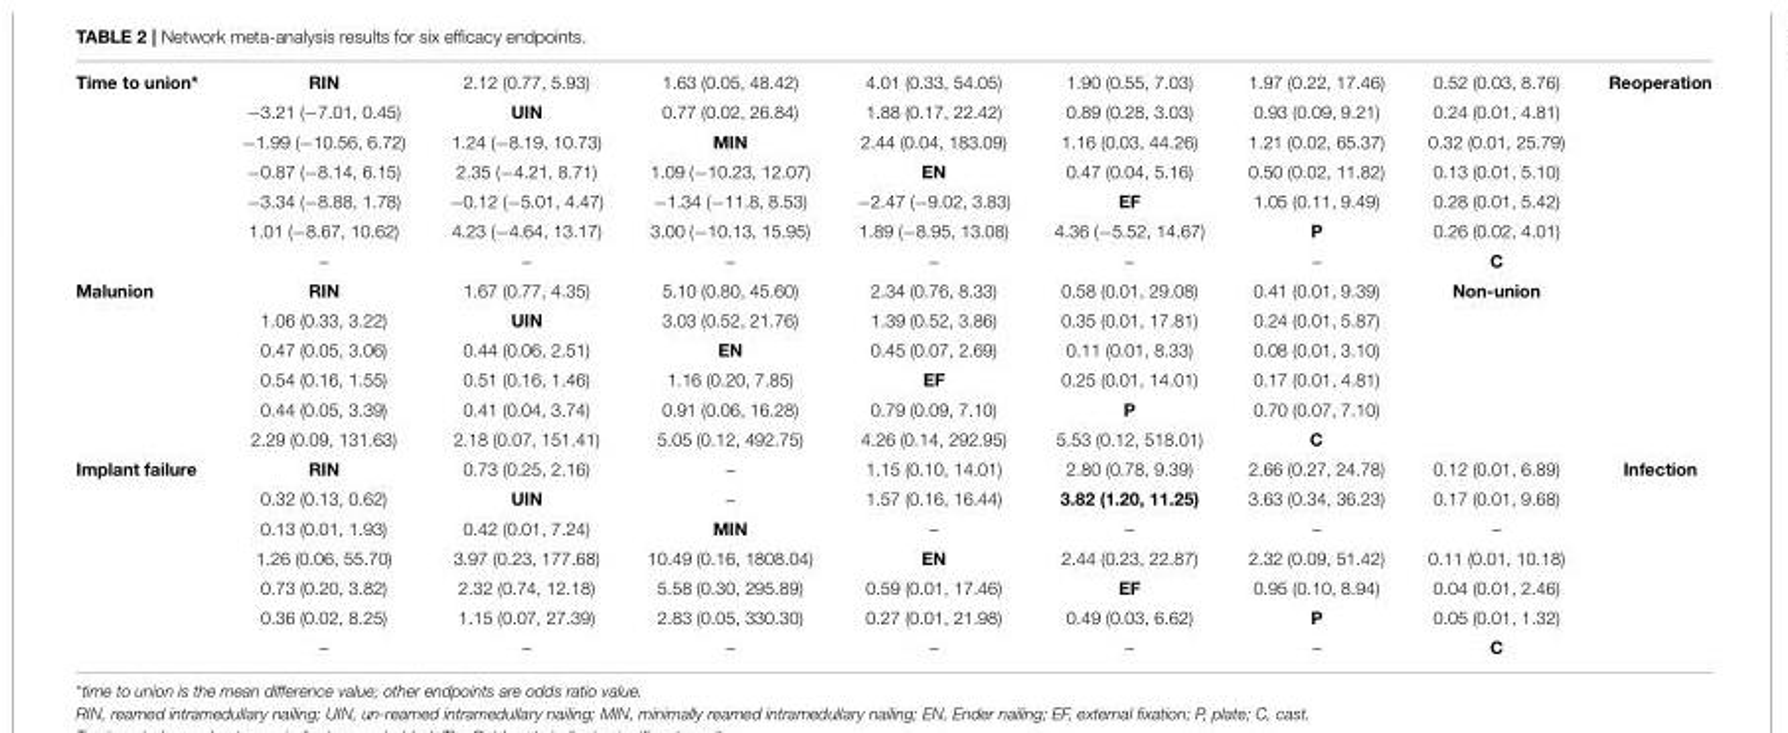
<table><tbody><tr><td rowspan="7">Time to union*</td><td>RIN</td><td>2.12 (0.77, 5.93)</td><td>1.63 (0.05, 48.42)</td><td>4.01 (0.33, 54.05)</td><td>1.90 (0.55, 7.03)</td><td>1.97 (0.22, 17.46)</td><td>0.52 (0.03, 8.76)</td><td>Reoperation</td></tr><tr><td>−3.21 (−7.01, 0.45)</td><td>UIN</td><td>0.77 (0.02, 26.84)</td><td>1.88 (0.17, 22.42)</td><td>0.89 (0.28, 3.03)</td><td>0.93 (0.09, 9.21)</td><td>0.24 (0.01, 4.81)</td><td></td></tr><tr><td>−1.99 (−10.56, 6.72)</td><td>1.24 (−8.19, 10.73)</td><td>MIN</td><td>2.44 (0.04, 183.09)</td><td>1.16 (0.03, 44.26)</td><td>1.21 (0.02, 65.37)</td><td>0.32 (0.01, 25.79)</td><td></td></tr><tr><td>−0.87 (−8.14, 6.15)</td><td>2.35 (−4.21, 8.71)</td><td>1.09 (−10.23, 12.07)</td><td>EN</td><td>0.47 (0.04, 5.16)</td><td>0.50 (0.02, 11.82)</td><td>0.13 (0.01, 5.10)</td><td></td></tr><tr><td>−3.34 (−8.88, 1.78)</td><td>−0.12 (−5.01, 4.47)</td><td>−1.34 (−11.8, 8.53)</td><td>−2.47 (−9.02, 3.83)</td><td>EF</td><td>1.05 (0.11, 9.49)</td><td>0.28 (0.01, 5.42)</td><td></td></tr><tr><td>1.01 (−8.67, 10.62)</td><td>4.23 (−4.64, 13.17)</td><td>3.00 (−10.13, 15.95)</td><td>1.89 (−8.95, 13.08)</td><td>4.36 (−5.52, 14.67)</td><td>P</td><td>0.26 (0.02, 4.01)</td><td></td></tr><tr><td>–</td><td>–</td><td>–</td><td>–</td><td>–</td><td>–</td><td>C</td><td></td></tr><tr><td rowspan="6">Malunion</td><td>RIN</td><td>1.67 (0.77, 4.35)</td><td>5.10 (0.80, 45.60)</td><td>2.34 (0.76, 8.33)</td><td>0.58 (0.01, 29.08)</td><td>0.41 (0.01, 9.39)</td><td>Non-union</td><td></td></tr><tr><td>1.06 (0.33, 3.22)</td><td>UIN</td><td>3.03 (0.52, 21.76)</td><td>1.39 (0.52, 3.86)</td><td>0.35 (0.01, 17.81)</td><td>0.24 (0.01, 5.87)</td><td></td><td></td></tr><tr><td>0.47 (0.05, 3.06)</td><td>0.44 (0.06, 2.51)</td><td>EN</td><td>0.45 (0.07, 2.69)</td><td>0.11 (0.01, 8.33)</td><td>0.08 (0.01, 3.10)</td><td></td><td></td></tr><tr><td>0.54 (0.16, 1.55)</td><td>0.51 (0.16, 1.46)</td><td>1.16 (0.20, 7.85)</td><td>EF</td><td>0.25 (0.01, 14.01)</td><td>0.17 (0.01, 4.81)</td><td></td><td></td></tr><tr><td>0.44 (0.05, 3.39)</td><td>0.41 (0.04, 3.74)</td><td>0.91 (0.06, 16.28)</td><td>0.79 (0.09, 7.10)</td><td>P</td><td>0.70 (0.07, 7.10)</td><td></td><td></td></tr><tr><td>2.29 (0.09, 131.63)</td><td>2.18 (0.07, 151.41)</td><td>5.05 (0.12, 492.75)</td><td>4.26 (0.14, 292.95)</td><td>5.53 (0.12, 518.01)</td><td>C</td><td></td><td></td></tr><tr><td rowspan="7">Implant failure</td><td>RIN</td><td>0.73 (0.25, 2.16)</td><td>–</td><td>1.15 (0.10, 14.01)</td><td>2.80 (0.78, 9.39)</td><td>2.66 (0.27, 24.78)</td><td>0.12 (0.01, 6.89)</td><td>Infection</td></tr><tr><td>0.32 (0.13, 0.62)</td><td>UIN</td><td>–</td><td>1.57 (0.16, 16.44)</td><td>3.82 (1.20, 11.25)</td><td>3.63 (0.34, 36.23)</td><td>0.17 (0.01, 9.68)</td><td></td></tr><tr><td>0.13 (0.01, 1.93)</td><td>0.42 (0.01, 7.24)</td><td>MIN</td><td>–</td><td>–</td><td>–</td><td>–</td><td></td></tr><tr><td>1.26 (0.06, 55.70)</td><td>3.97 (0.23, 177.68)</td><td>10.49 (0.16, 1808.04)</td><td>EN</td><td>2.44 (0.23, 22.87)</td><td>2.32 (0.09, 51.42)</td><td>0.11 (0.01, 10.18)</td><td></td></tr><tr><td>0.73 (0.20, 3.82)</td><td>2.32 (0.74, 12.18)</td><td>5.58 (0.30, 295.89)</td><td>0.59 (0.01, 17.46)</td><td>EF</td><td>0.95 (0.10, 8.94)</td><td>0.04 (0.01, 2.46)</td><td></td></tr><tr><td>0.36 (0.02, 8.25)</td><td>1.15 (0.07, 27.39)</td><td>2.83 (0.05, 330.30)</td><td>0.27 (0.01, 21.98)</td><td>0.49 (0.03, 6.62)</td><td>P</td><td>0.05 (0.01, 1.32)</td><td></td></tr><tr><td>–</td><td>–</td><td>–</td><td>–</td><td>–</td><td>–</td><td>C</td><td></td></tr></tbody></table>